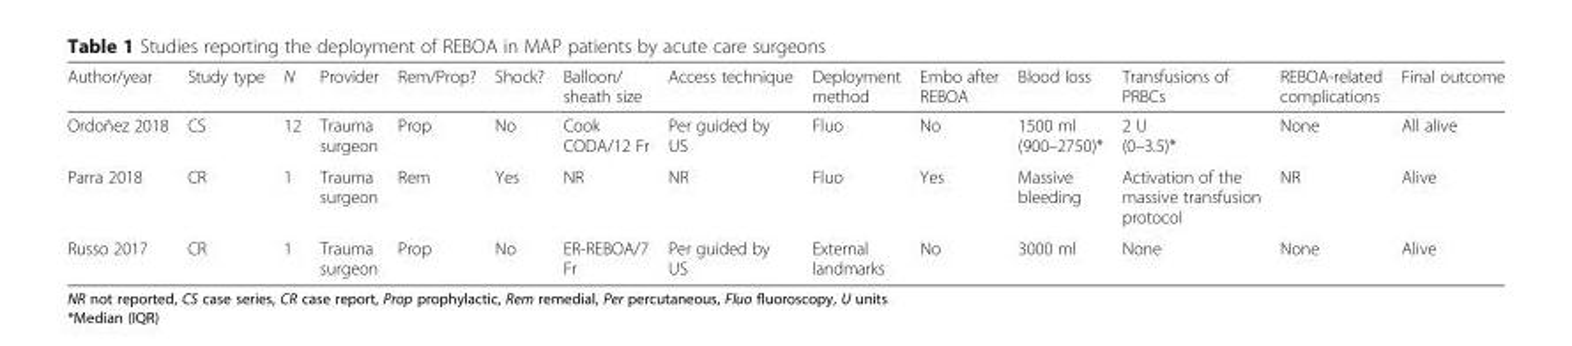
<table><thead><tr><td>Author/year</td><td>Study type</td><td>N</td><td>Provider</td><td>Rem/Prop?</td><td>Shock?</td><td>Balloon/ sheath size</td><td>Access technique</td><td>Deployment method</td><td>Embo after REBOA</td><td>Blood loss</td><td>Transfusions of PRBCs</td><td>REBOA-related complications</td><td>Final outcome</td></tr></thead><tbody><tr><td>Ordoñez 2018</td><td>CS</td><td>12</td><td>Trauma surgeon</td><td>Prop</td><td>No</td><td>Cook CODA/12 Fr</td><td>Per guided by US</td><td>Fluo</td><td>No</td><td>1500 ml (900–2750)*</td><td>2 U (0–3.5)*</td><td>None</td><td>All alive</td></tr><tr><td>Parra 2018</td><td>CR</td><td>1</td><td>Trauma surgeon</td><td>Rem</td><td>Yes</td><td>NR</td><td>NR</td><td>Fluo</td><td>Yes</td><td>Massive bleeding</td><td>Activation of the massive transfusion protocol</td><td>NR</td><td>Alive</td></tr><tr><td>Russo 2017</td><td>CR</td><td>1</td><td>Trauma surgeon</td><td>Prop</td><td>No</td><td>ER-REBOA/7 Fr</td><td>Per guided by US</td><td>External landmarks</td><td>No</td><td>3000 ml</td><td>None</td><td>None</td><td>Alive</td></tr></tbody></table>